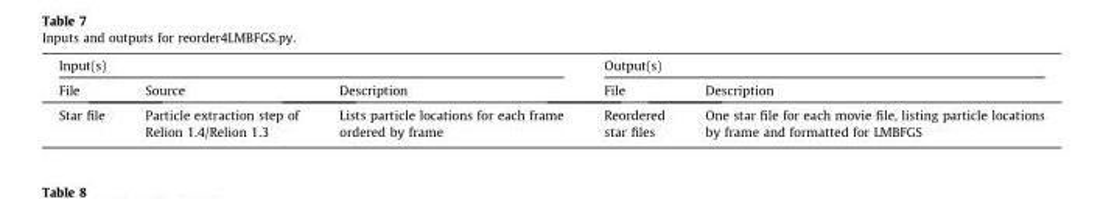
<table><thead><tr><td colspan="3">Input(s)</td><td colspan="2">Output(s)</td></tr><tr><td>File</td><td>Source</td><td>Description</td><td>File</td><td>Description</td></tr></thead><tbody><tr><td>Star file</td><td>Particle extraction step of Relion 1.4/Relion 1.3</td><td>Lists particle locations for each frame ordered by frame</td><td>Reordered star files</td><td>One star file for each movie file, listing particle locations by frame and formatted for LMBFGS</td></tr></tbody></table>